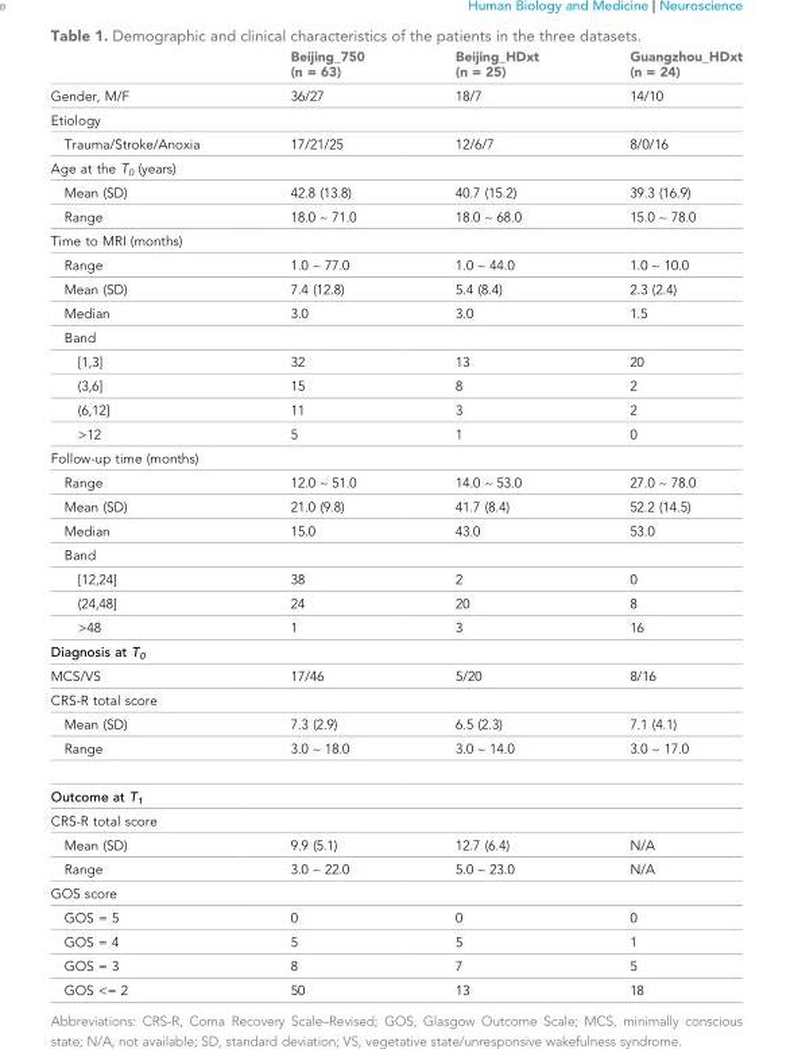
<table><thead><tr><td></td><td>Beijing_750 (n = 63)</td><td>Beijing_HDxt (n = 25)</td><td>Guangzhou_HDxt (n = 24)</td></tr></thead><tbody><tr><td>Gender, M/F</td><td>36/27</td><td>18/7</td><td>14/10</td></tr><tr><td colspan="4">Etiology</td></tr><tr><td>Trauma/Stroke/Anoxia</td><td>17/21/25</td><td>12/6/7</td><td>8/0/16</td></tr><tr><td colspan="4">Age at the T<sub>0</sub> (years)</td></tr><tr><td>Mean (SD)</td><td>42.8 (13.8)</td><td>40.7 (15.2)</td><td>39.3 (16.9)</td></tr><tr><td>Range</td><td>18.0 ~ 71.0</td><td>18.0 ~ 68.0</td><td>15.0 ~ 78.0</td></tr><tr><td colspan="4">Time to MRI (months)</td></tr><tr><td>Range</td><td>1.0 ~ 77.0</td><td>1.0 ~ 44.0</td><td>1.0 ~ 10.0</td></tr><tr><td>Mean (SD)</td><td>7.4 (12.8)</td><td>5.4 (8.4)</td><td>2.3 (2.4)</td></tr><tr><td>Median</td><td>3.0</td><td>3.0</td><td>1.5</td></tr><tr><td colspan="4">Band</td></tr><tr><td>[1,3]</td><td>32</td><td>13</td><td>20</td></tr><tr><td>(3,6]</td><td>15</td><td>8</td><td>2</td></tr><tr><td>(6,12]</td><td>11</td><td>3</td><td>2</td></tr><tr><td>&gt;12</td><td>5</td><td>1</td><td>0</td></tr><tr><td colspan="4">Follow-up time (months)</td></tr><tr><td>Range</td><td>12.0 ~ 51.0</td><td>14.0 ~ 53.0</td><td>27.0 ~ 78.0</td></tr><tr><td>Mean (SD)</td><td>21.0 (9.8)</td><td>41.7 (8.4)</td><td>52.2 (14.5)</td></tr><tr><td>Median</td><td>15.0</td><td>43.0</td><td>53.0</td></tr><tr><td colspan="4">Band</td></tr><tr><td>[12,24]</td><td>38</td><td>2</td><td>0</td></tr><tr><td>(24,48]</td><td>24</td><td>20</td><td>8</td></tr><tr><td>&gt;48</td><td>1</td><td>3</td><td>16</td></tr><tr><td colspan="4">Diagnosis at T<sub>0</sub></td></tr><tr><td>MCS/VS</td><td>17/46</td><td>5/20</td><td>8/16</td></tr><tr><td colspan="4">CRS-R total score</td></tr><tr><td>Mean (SD)</td><td>7.3 (2.9)</td><td>6.5 (2.3)</td><td>7.1 (4.1)</td></tr><tr><td>Range</td><td>3.0 ~ 18.0</td><td>3.0 ~ 14.0</td><td>3.0 ~ 17.0</td></tr><tr><td colspan="4">Outcome at T<sub>1</sub></td></tr><tr><td colspan="4">CRS-R total score</td></tr><tr><td>Mean (SD)</td><td>9.9 (5.1)</td><td>12.7 (6.4)</td><td>N/A</td></tr><tr><td>Range</td><td>3.0 ~ 22.0</td><td>5.0 ~ 23.0</td><td>N/A</td></tr><tr><td colspan="4">GOS score</td></tr><tr><td>GOS = 5</td><td>0</td><td>0</td><td>0</td></tr><tr><td>GOS = 4</td><td>5</td><td>5</td><td>1</td></tr><tr><td>GOS = 3</td><td>8</td><td>7</td><td>5</td></tr><tr><td>GOS &lt;= 2</td><td>50</td><td>13</td><td>18</td></tr></tbody></table>